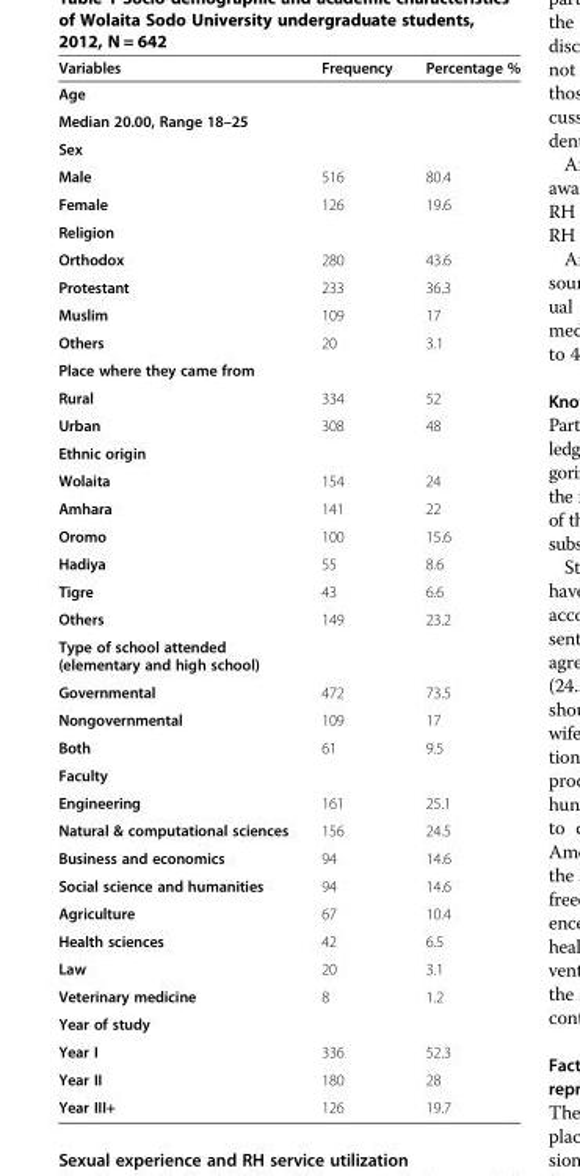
<table><thead><tr><td>Variables</td><td>Frequency</td><td>Percentage %</td></tr></thead><tbody><tr><td>Age</td><td rowspan="2"></td><td rowspan="2"></td></tr><tr><td>Median 20.00, Range 18–25</td></tr><tr><td colspan="3">Sex</td></tr><tr><td>Male</td><td>516</td><td>80.4</td></tr><tr><td>Female</td><td>126</td><td>19.6</td></tr><tr><td colspan="3">Religion</td></tr><tr><td>Orthodox</td><td>280</td><td>43.6</td></tr><tr><td>Protestant</td><td>233</td><td>36.3</td></tr><tr><td>Muslim</td><td>109</td><td>17</td></tr><tr><td>Others</td><td>20</td><td>3.1</td></tr><tr><td colspan="3">Place where they came from</td></tr><tr><td>Rural</td><td>334</td><td>52</td></tr><tr><td>Urban</td><td>308</td><td>48</td></tr><tr><td colspan="3">Ethnic origin</td></tr><tr><td>Wolaita</td><td>154</td><td>24</td></tr><tr><td>Amhara</td><td>141</td><td>22</td></tr><tr><td>Oromo</td><td>100</td><td>15.6</td></tr><tr><td>Hadiya</td><td>55</td><td>8.6</td></tr><tr><td>Tigre</td><td>43</td><td>6.6</td></tr><tr><td>Others</td><td>149</td><td>23.2</td></tr><tr><td colspan="3">Type of school attended (elementary and high school)</td></tr><tr><td>Governmental</td><td>472</td><td>73.5</td></tr><tr><td>Nongovernmental</td><td>109</td><td>17</td></tr><tr><td>Both</td><td>61</td><td>9.5</td></tr><tr><td colspan="3">Faculty</td></tr><tr><td>Engineering</td><td>161</td><td>25.1</td></tr><tr><td>Natural &amp; computational sciences</td><td>156</td><td>24.5</td></tr><tr><td>Business and economics</td><td>94</td><td>14.6</td></tr><tr><td>Social science and humanities</td><td>94</td><td>14.6</td></tr><tr><td>Agriculture</td><td>67</td><td>10.4</td></tr><tr><td>Health sciences</td><td>42</td><td>6.5</td></tr><tr><td>Law</td><td>20</td><td>3.1</td></tr><tr><td>Veterinary medicine</td><td>8</td><td>1.2</td></tr><tr><td colspan="3">Year of study</td></tr><tr><td>Year I</td><td>336</td><td>52.3</td></tr><tr><td>Year II</td><td>180</td><td>28</td></tr><tr><td>Year III+</td><td>126</td><td>19.7</td></tr></tbody></table>